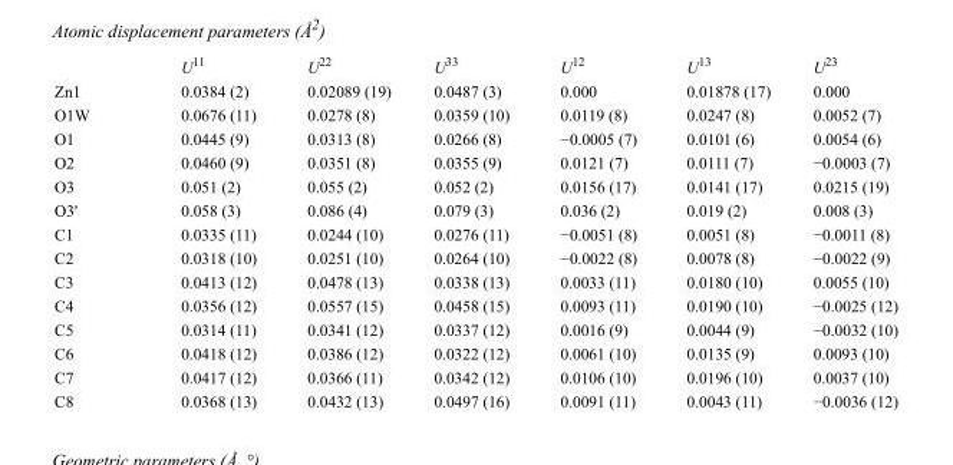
<table><thead><tr><td></td><td>U<sup>11</sup></td><td>U<sup>22</sup></td><td>U<sup>33</sup></td><td>U<sup>12</sup></td><td>U<sup>13</sup></td><td>U<sup>23</sup></td></tr></thead><tbody><tr><td>Zn1</td><td>0.0384 (2)</td><td>0.02089 (19)</td><td>0.0487 (3)</td><td>0.000</td><td>0.01878 (17)</td><td>0.000</td></tr><tr><td>O1W</td><td>0.0676 (11)</td><td>0.0278 (8)</td><td>0.0359 (10)</td><td>0.0119 (8)</td><td>0.0247 (8)</td><td>0.0052 (7)</td></tr><tr><td>O1</td><td>0.0445 (9)</td><td>0.0313 (8)</td><td>0.0266 (8)</td><td>−0.0005 (7)</td><td>0.0101 (6)</td><td>0.0054 (6)</td></tr><tr><td>O2</td><td>0.0460 (9)</td><td>0.0351 (8)</td><td>0.0355 (9)</td><td>0.0121 (7)</td><td>0.0111 (7)</td><td>−0.0003 (7)</td></tr><tr><td>O3</td><td>0.051 (2)</td><td>0.055 (2)</td><td>0.052 (2)</td><td>0.0156 (17)</td><td>0.0141 (17)</td><td>0.0215 (19)</td></tr><tr><td>O3&#x27;</td><td>0.058 (3)</td><td>0.086 (4)</td><td>0.079 (3)</td><td>0.036 (2)</td><td>0.019 (2)</td><td>0.008 (3)</td></tr><tr><td>C1</td><td>0.0335 (11)</td><td>0.0244 (10)</td><td>0.0276 (11)</td><td>−0.0051 (8)</td><td>0.0051 (8)</td><td>−0.0011 (8)</td></tr><tr><td>C2</td><td>0.0318 (10)</td><td>0.0251 (10)</td><td>0.0264 (10)</td><td>−0.0022 (8)</td><td>0.0078 (8)</td><td>−0.0022 (9)</td></tr><tr><td>C3</td><td>0.0413 (12)</td><td>0.0478 (13)</td><td>0.0338 (13)</td><td>0.0033 (11)</td><td>0.0180 (10)</td><td>0.0055 (10)</td></tr><tr><td>C4</td><td>0.0356 (12)</td><td>0.0557 (15)</td><td>0.0458 (15)</td><td>0.0093 (11)</td><td>0.0190 (10)</td><td>−0.0025 (12)</td></tr><tr><td>C5</td><td>0.0314 (11)</td><td>0.0341 (12)</td><td>0.0337 (12)</td><td>0.0016 (9)</td><td>0.0044 (9)</td><td>−0.0032 (10)</td></tr><tr><td>C6</td><td>0.0418 (12)</td><td>0.0386 (12)</td><td>0.0322 (12)</td><td>0.0061 (10)</td><td>0.0135 (9)</td><td>0.0093 (10)</td></tr><tr><td>C7</td><td>0.0417 (12)</td><td>0.0366 (11)</td><td>0.0342 (12)</td><td>0.0106 (10)</td><td>0.0196 (10)</td><td>0.0037 (10)</td></tr><tr><td>C8</td><td>0.0368 (13)</td><td>0.0432 (13)</td><td>0.0497 (16)</td><td>0.0091 (11)</td><td>0.0043 (11)</td><td>−0.0036 (12)</td></tr></tbody></table>